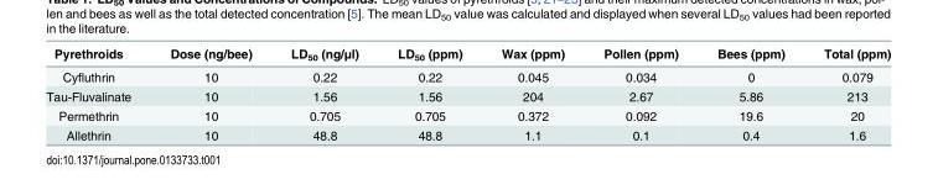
<table><thead><tr><td>Pyrethroids</td><td>Dose (ng/bee)</td><td>LD<sub>50</sub> (ng/μl)</td><td>LD<sub>50</sub> (ppm)</td><td>Wax (ppm)</td><td>Pollen (ppm)</td><td>Bees (ppm)</td><td>Total (ppm)</td></tr></thead><tbody><tr><td>Cyfluthrin</td><td>10</td><td>0.22</td><td>0.22</td><td>0.045</td><td>0.034</td><td>0</td><td>0.079</td></tr><tr><td>Tau-Fluvalinate</td><td>10</td><td>1.56</td><td>1.56</td><td>204</td><td>2.67</td><td>5.86</td><td>213</td></tr><tr><td>Permethrin</td><td>10</td><td>0.705</td><td>0.705</td><td>0.372</td><td>0.092</td><td>19.6</td><td>20</td></tr><tr><td>Allethrin</td><td>10</td><td>48.8</td><td>48.8</td><td>1.1</td><td>0.1</td><td>0.4</td><td>1.6</td></tr></tbody></table>